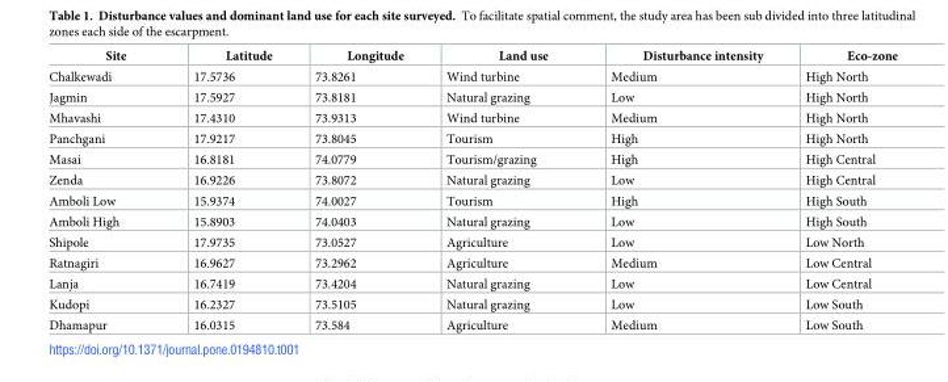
<table><thead><tr><td>Site</td><td>Latitude</td><td>Longitude</td><td>Land use</td><td>Disturbance intensity</td><td>Eco-zone</td></tr></thead><tbody><tr><td>Chalkewadi</td><td>17.5736</td><td>73.8261</td><td>Wind turbine</td><td>Medium</td><td>High North</td></tr><tr><td>Jagmin</td><td>17.5927</td><td>73.8181</td><td>Natural grazing</td><td>Low</td><td>High North</td></tr><tr><td>Mhavashi</td><td>17.4310</td><td>73.9313</td><td>Wind turbine</td><td>Medium</td><td>High North</td></tr><tr><td>Panchgani</td><td>17.9217</td><td>73.8045</td><td>Tourism</td><td>High</td><td>High North</td></tr><tr><td>Masai</td><td>16.8181</td><td>74.0779</td><td>Tourism/grazing</td><td>High</td><td>High Central</td></tr><tr><td>Zenda</td><td>16.9226</td><td>73.8072</td><td>Natural grazing</td><td>Low</td><td>High Central</td></tr><tr><td>Amboli Low</td><td>15.9374</td><td>74.0027</td><td>Tourism</td><td>High</td><td>High South</td></tr><tr><td>Amboli High</td><td>15.8903</td><td>74.0403</td><td>Natural grazing</td><td>Low</td><td>High South</td></tr><tr><td>Shipole</td><td>17.9735</td><td>73.0527</td><td>Agriculture</td><td>Low</td><td>Low North</td></tr><tr><td>Ratnagiri</td><td>16.9627</td><td>73.2962</td><td>Agriculture</td><td>Medium</td><td>Low Central</td></tr><tr><td>Lanja</td><td>16.7419</td><td>73.4204</td><td>Natural grazing</td><td>Low</td><td>Low Central</td></tr><tr><td>Kudopi</td><td>16.2327</td><td>73.5105</td><td>Natural grazing</td><td>Low</td><td>Low South</td></tr><tr><td>Dhamapur</td><td>16.0315</td><td>73.584</td><td>Agriculture</td><td>Medium</td><td>Low South</td></tr></tbody></table>